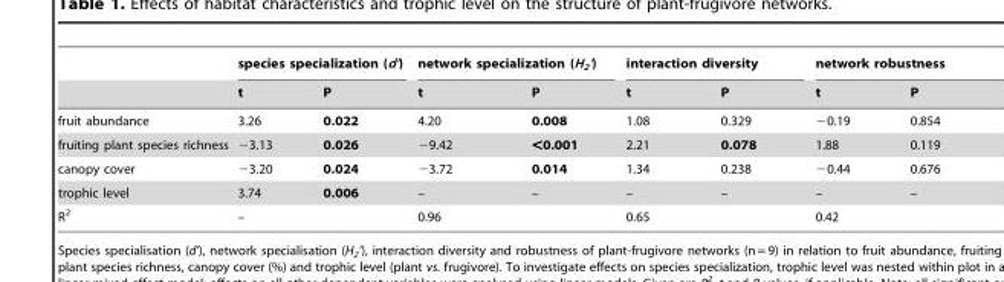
<table><thead><tr><td rowspan="2"></td><td colspan="2">species specialization (d’)</td><td colspan="2">network specialization (H<sub>2</sub>’)</td><td colspan="2">interaction diversity</td><td colspan="2">network robustness</td></tr><tr><td>t</td><td>P</td><td>t</td><td>P</td><td>t</td><td>P</td><td>t</td><td>P</td></tr></thead><tbody><tr><td>fruit abundance</td><td>3.26</td><td>0.022</td><td>4.20</td><td>0.008</td><td>1.08</td><td>0.329</td><td>−0.19</td><td>0.854</td></tr><tr><td>fruiting plant species richness</td><td>−3.13</td><td>0.026</td><td>−9.42</td><td>&lt;0.001</td><td>2.21</td><td>0.078</td><td>1.88</td><td>0.119</td></tr><tr><td>canopy cover</td><td>−3.20</td><td>0.024</td><td>−3.72</td><td>0.014</td><td>1.34</td><td>0.238</td><td>−0.44</td><td>0.676</td></tr><tr><td>trophic level</td><td>3.74</td><td>0.006</td><td>–</td><td>–</td><td>–</td><td>–</td><td>–</td><td>–</td></tr><tr><td>R<sup>2</sup></td><td>–</td><td></td><td>0.96</td><td></td><td>0.65</td><td></td><td>0.42</td><td></td></tr></tbody></table>